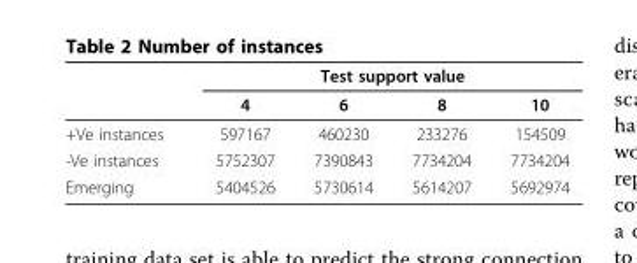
<table><thead><tr><td rowspan="2"></td><td colspan="4">Test support value</td></tr><tr><td>4</td><td>6</td><td>8</td><td>10</td></tr></thead><tbody><tr><td>+Ve instances</td><td>597167</td><td>460230</td><td>233276</td><td>154509</td></tr><tr><td>-Ve instances</td><td>5752307</td><td>7390843</td><td>7734204</td><td>7734204</td></tr><tr><td>Emerging</td><td>5404526</td><td>5730614</td><td>5614207</td><td>5692974</td></tr></tbody></table>